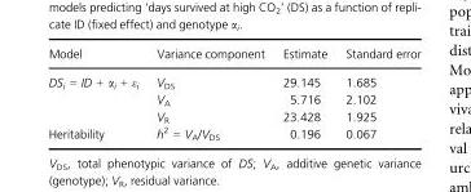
<table><thead><tr><td>Model</td><td>Variance component</td><td>Estimate</td><td>Standard error</td></tr></thead><tbody><tr><td rowspan="3">DS<sub>i</sub> = ID + α<sub>i</sub> + ε<sub>i</sub></td><td>V<sub>DS</sub></td><td>29.145</td><td>1.685</td></tr><tr><td>V<sub>A</sub></td><td>5.716</td><td>2.102</td></tr><tr><td>V<sub>R</sub></td><td>23.428</td><td>1.925</td></tr><tr><td>Heritability</td><td>h<sup>2</sup> = V<sub>A</sub>/V<sub>DS</sub></td><td>0.196</td><td>0.067</td></tr></tbody></table>